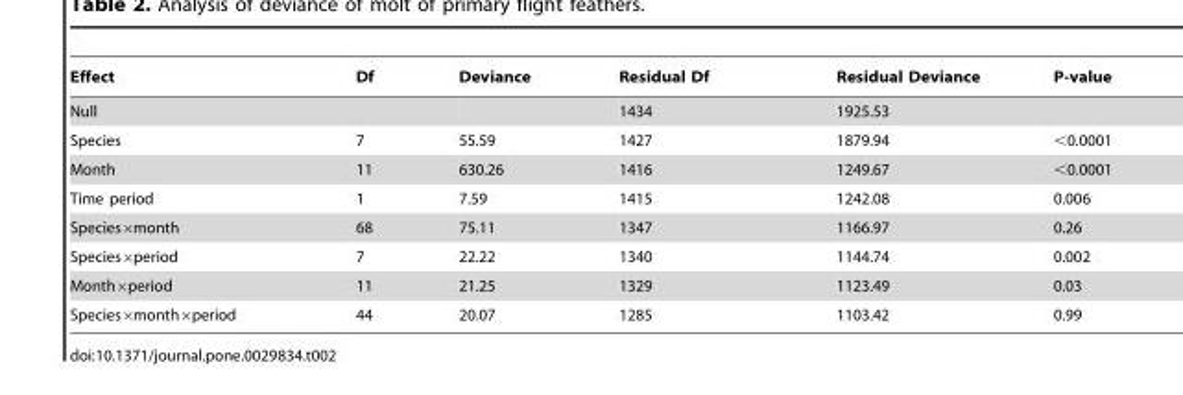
<table><thead><tr><td>Effect</td><td>Df</td><td>Deviance</td><td>Residual Df</td><td>Residual Deviance</td><td>P-value</td></tr></thead><tbody><tr><td>Null</td><td></td><td></td><td>1434</td><td>1925.53</td><td></td></tr><tr><td>Species</td><td>7</td><td>55.59</td><td>1427</td><td>1879.94</td><td>&lt;0.0001</td></tr><tr><td>Month</td><td>11</td><td>630.26</td><td>1416</td><td>1249.67</td><td>&lt;0.0001</td></tr><tr><td>Time period</td><td>1</td><td>7.59</td><td>1415</td><td>1242.08</td><td>0.006</td></tr><tr><td>Species×month</td><td>68</td><td>75.11</td><td>1347</td><td>1166.97</td><td>0.26</td></tr><tr><td>Species×period</td><td>7</td><td>22.22</td><td>1340</td><td>1144.74</td><td>0.002</td></tr><tr><td>Month×period</td><td>11</td><td>21.25</td><td>1329</td><td>1123.49</td><td>0.03</td></tr><tr><td>Species×month×period</td><td>44</td><td>20.07</td><td>1285</td><td>1103.42</td><td>0.99</td></tr></tbody></table>